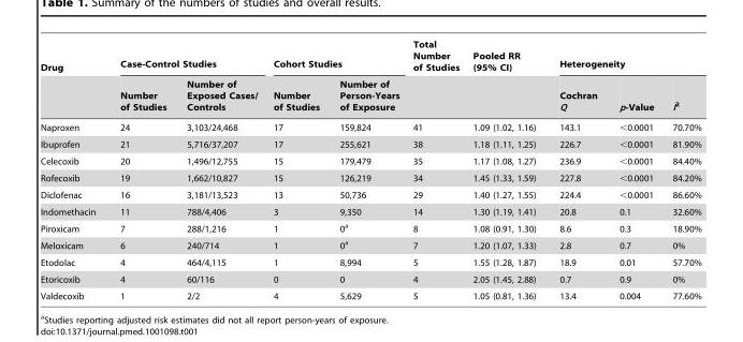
<table><thead><tr><td rowspan="2">Drug</td><td colspan="2">Case-Control Studies</td><td colspan="2">Cohort Studies</td><td rowspan="2">Total Number of Studies</td><td rowspan="2">Pooled RR (95% CI)</td><td colspan="3">Heterogeneity</td></tr><tr><td>Number of Studies</td><td>Number of Exposed Cases/ Controls</td><td>Number of Studies</td><td>Number of Person-Years of Exposure</td><td>Cochran Q</td><td>p-Value</td><td>I<sup>2</sup></td></tr></thead><tbody><tr><td>Naproxen</td><td>24</td><td>3,103/24,468</td><td>17</td><td>159,824</td><td>41</td><td>1.09 (1.02, 1.16)</td><td>143.1</td><td>&lt;0.0001</td><td>70.70%</td></tr><tr><td>Ibuprofen</td><td>21</td><td>5,716/37,207</td><td>17</td><td>255,621</td><td>38</td><td>1.18 (1.11, 1.25)</td><td>226.7</td><td>&lt;0.0001</td><td>81.90%</td></tr><tr><td>Celecoxib</td><td>20</td><td>1,496/12,755</td><td>15</td><td>179,479</td><td>35</td><td>1.17 (1.08, 1.27)</td><td>236.9</td><td>&lt;0.0001</td><td>84.40%</td></tr><tr><td>Rofecoxib</td><td>19</td><td>1,662/10,827</td><td>15</td><td>126,219</td><td>34</td><td>1.45 (1.33, 1.59)</td><td>227.8</td><td>&lt;0.0001</td><td>84.20%</td></tr><tr><td>Diclofenac</td><td>16</td><td>3,181/13,523</td><td>13</td><td>50,736</td><td>29</td><td>1.40 (1.27, 1.55)</td><td>224.4</td><td>&lt;0.0001</td><td>86.60%</td></tr><tr><td>Indomethacin</td><td>11</td><td>788/4,406</td><td>3</td><td>9,350</td><td>14</td><td>1.30 (1.19, 1.41)</td><td>20.8</td><td>0.1</td><td>32.60%</td></tr><tr><td>Piroxicam</td><td>7</td><td>288/1,216</td><td>1</td><td>0<sup>a</sup></td><td>8</td><td>1.08 (0.91, 1.30)</td><td>8.6</td><td>0.3</td><td>18.90%</td></tr><tr><td>Meloxicam</td><td>6</td><td>240/714</td><td>1</td><td>0<sup>a</sup></td><td>7</td><td>1.20 (1.07, 1.33)</td><td>2.8</td><td>0.7</td><td>0%</td></tr><tr><td>Etodolac</td><td>4</td><td>464/4,115</td><td>1</td><td>8,994</td><td>5</td><td>1.55 (1.28, 1.87)</td><td>18.9</td><td>0.01</td><td>57.70%</td></tr><tr><td>Etoricoxib</td><td>4</td><td>60/116</td><td>0</td><td>0</td><td>4</td><td>2.05 (1.45, 2.88)</td><td>0.7</td><td>0.9</td><td>0%</td></tr><tr><td>Valdecoxib</td><td>1</td><td>2/2</td><td>4</td><td>5,629</td><td>5</td><td>1.05 (0.81, 1.36)</td><td>13.4</td><td>0.004</td><td>77.60%</td></tr></tbody></table>